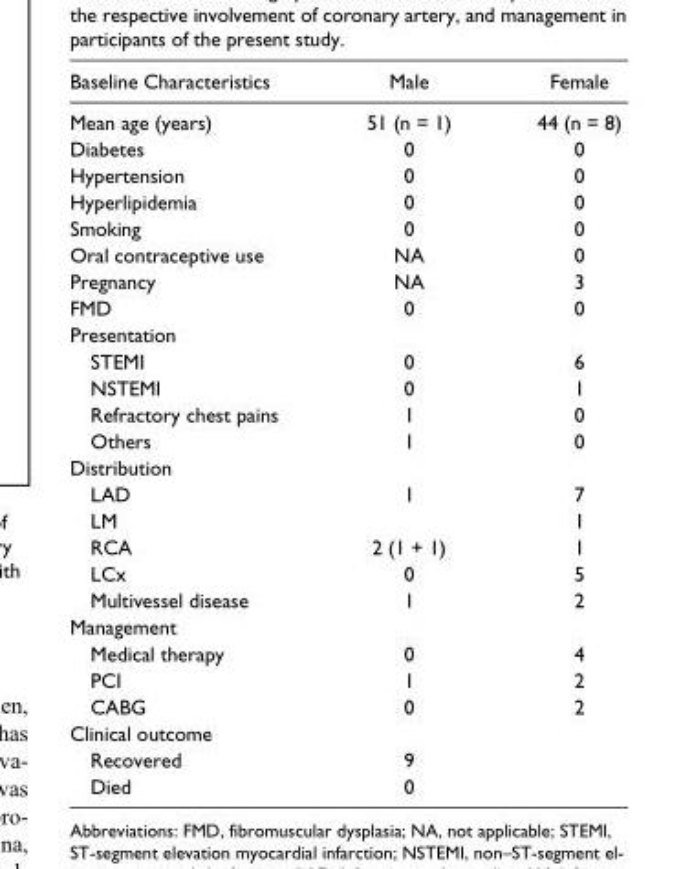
<table><thead><tr><td>Baseline Characteristics</td><td>Male</td><td>Female</td></tr></thead><tbody><tr><td>Mean age (years)</td><td>51 (n = 1)</td><td>44 (n = 8)</td></tr><tr><td>Diabetes</td><td>0</td><td>0</td></tr><tr><td>Hypertension</td><td>0</td><td>0</td></tr><tr><td>Hyperlipidemia</td><td>0</td><td>0</td></tr><tr><td>Smoking</td><td>0</td><td>0</td></tr><tr><td>Oral contraceptive use</td><td>NA</td><td>0</td></tr><tr><td>Pregnancy</td><td>NA</td><td>3</td></tr><tr><td>FMD</td><td>0</td><td>0</td></tr><tr><td colspan="3">Presentation</td></tr><tr><td>STEMI</td><td>0</td><td>6</td></tr><tr><td>NSTEMI</td><td>0</td><td>1</td></tr><tr><td>Refractory chest pains</td><td>1</td><td>0</td></tr><tr><td>Others</td><td>1</td><td>0</td></tr><tr><td colspan="3">Distribution</td></tr><tr><td>LAD</td><td>1</td><td>7</td></tr><tr><td>LM</td><td></td><td>1</td></tr><tr><td>RCA</td><td>2 (1 + 1)</td><td>1</td></tr><tr><td>LCx</td><td>0</td><td>5</td></tr><tr><td>Multivessel disease</td><td>1</td><td>2</td></tr><tr><td colspan="3">Management</td></tr><tr><td>Medical therapy</td><td>0</td><td>4</td></tr><tr><td>PCI</td><td>1</td><td>2</td></tr><tr><td>CABG</td><td>0</td><td>2</td></tr><tr><td colspan="3">Clinical outcome</td></tr><tr><td>Recovered</td><td>9</td><td></td></tr><tr><td>Died</td><td>0</td><td></td></tr></tbody></table>